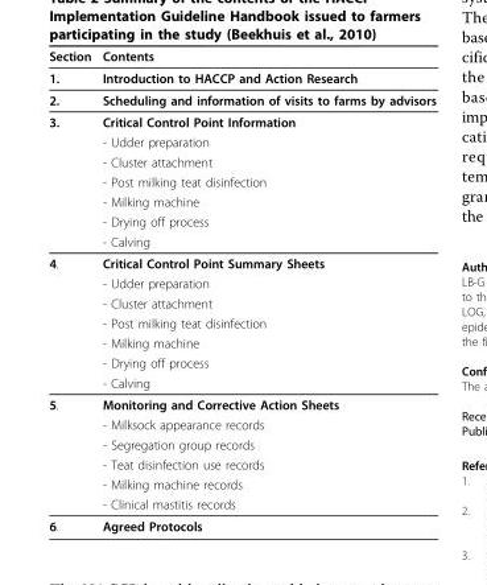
<table><thead><tr><td>Section</td><td>Contents</td></tr></thead><tbody><tr><td>1.</td><td>Introduction to HACCP and Action Research</td></tr><tr><td>2.</td><td>Scheduling and information of visits to farms by advisors</td></tr><tr><td rowspan="7">3.</td><td>Critical Control Point Information</td></tr><tr><td>- Udder preparation</td></tr><tr><td>- Cluster attachment</td></tr><tr><td>- Post milking teat disinfection</td></tr><tr><td>- Milking machine</td></tr><tr><td>- Drying off process</td></tr><tr><td>- Calving</td></tr><tr><td rowspan="7">4.</td><td>Critical Control Point Summary Sheets</td></tr><tr><td>- Udder preparation</td></tr><tr><td>- Cluster attachment</td></tr><tr><td>- Post milking teat disinfection</td></tr><tr><td>- Milking machine</td></tr><tr><td>- Drying off process</td></tr><tr><td>- Calving</td></tr><tr><td rowspan="6">5.</td><td>Monitoring and Corrective Action Sheets</td></tr><tr><td>- Milksock appearance records</td></tr><tr><td>- Segregation group records</td></tr><tr><td>- Teat disinfection use records</td></tr><tr><td>- Milking machine records</td></tr><tr><td>- Clinical mastitis records</td></tr><tr><td>6.</td><td>Agreed Protocols</td></tr></tbody></table>